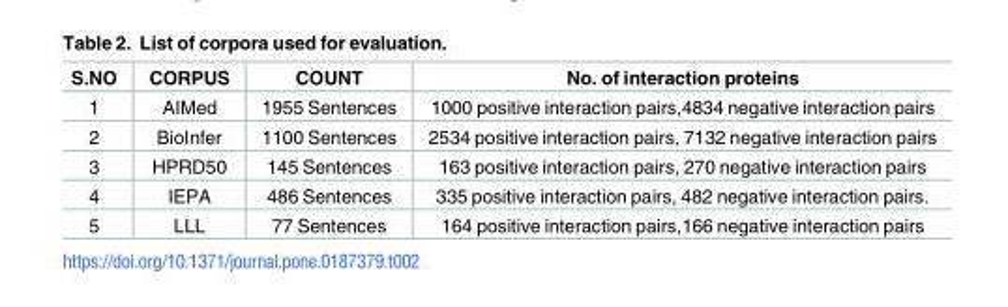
<table><thead><tr><td>S.NO</td><td>CORPUS</td><td>COUNT</td><td>No. of interaction proteins</td></tr></thead><tbody><tr><td>1</td><td>AIMed</td><td>1955 Sentences</td><td>1000 positive interaction pairs,4834 negative interaction pairs</td></tr><tr><td>2</td><td>BioInfer</td><td>1100 Sentences</td><td>2534 positive interaction pairs, 7132 negative interaction pairs</td></tr><tr><td>3</td><td>HPRD50</td><td>145 Sentences</td><td>163 positive interaction pairs, 270 negative interaction pairs</td></tr><tr><td>4</td><td>IEPA</td><td>486 Sentences</td><td>335 positive interaction pairs, 482 negative interaction pairs.</td></tr><tr><td>5</td><td>LLL</td><td>77 Sentences</td><td>164 positive interaction pairs,166 negative interaction pairs</td></tr></tbody></table>